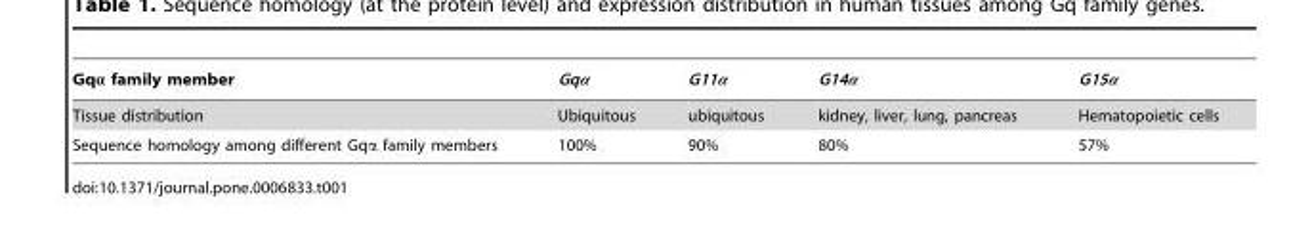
<table><thead><tr><td>Gqα family member</td><td>Gqα</td><td>G11α</td><td>G14α</td><td>G15α</td></tr></thead><tbody><tr><td>Tissue distribution</td><td>Ubiquitous</td><td>ubiquitous</td><td>kidney, liver, lung, pancreas</td><td>Hematopoietic cells</td></tr><tr><td>Sequence homology among different Gqα family members</td><td>100%</td><td>90%</td><td>80%</td><td>57%</td></tr></tbody></table>